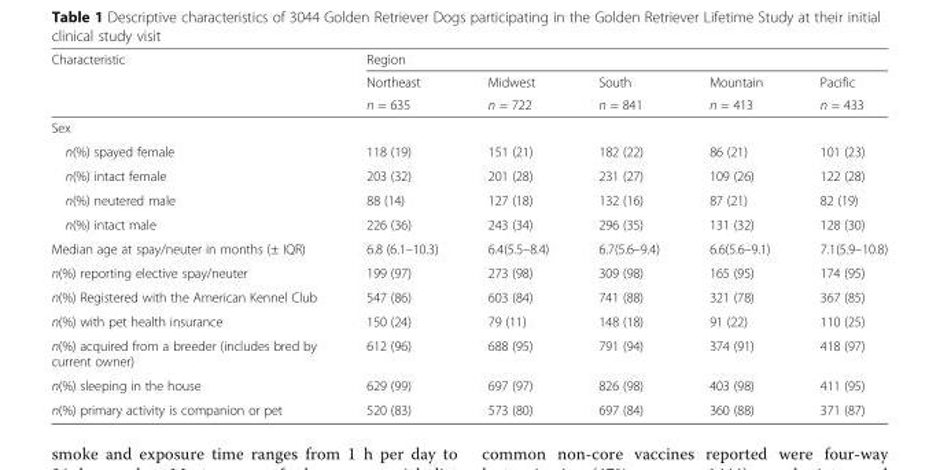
<table><thead><tr><td rowspan="3">Characteristic</td><td colspan="5">Region</td></tr><tr><td rowspan="2">Northeast n = 635</td><td rowspan="2">Midwest n = 722</td><td rowspan="2">South n = 841</td><td rowspan="2">Mountain n = 413</td><td rowspan="2">Pacific n = 433</td></tr><tr></tr></thead><tbody><tr><td colspan="6">Sex</td></tr><tr><td>n(%) spayed female</td><td>118 (19)</td><td>151 (21)</td><td>182 (22)</td><td>86 (21)</td><td>101 (23)</td></tr><tr><td>n(%) intact female</td><td>203 (32)</td><td>201 (28)</td><td>231 (27)</td><td>109 (26)</td><td>122 (28)</td></tr><tr><td>n(%) neutered male</td><td>88 (14)</td><td>127 (18)</td><td>132 (16)</td><td>87 (21)</td><td>82 (19)</td></tr><tr><td>n(%) intact male</td><td>226 (36)</td><td>243 (34)</td><td>296 (35)</td><td>131 (32)</td><td>128 (30)</td></tr><tr><td>Median age at spay/neuter in months (± IQR)</td><td>6.8 (6.1–10.3)</td><td>6.4(5.5–8.4)</td><td>6.7(5.6–9.4)</td><td>6.6(5.6–9.1)</td><td>7.1(5.9–10.8)</td></tr><tr><td>n(%) reporting elective spay/neuter</td><td>199 (97)</td><td>273 (98)</td><td>309 (98)</td><td>165 (95)</td><td>174 (95)</td></tr><tr><td>n(%) Registered with the American Kennel Club</td><td>547 (86)</td><td>603 (84)</td><td>741 (88)</td><td>321 (78)</td><td>367 (85)</td></tr><tr><td>n(%) with pet health insurance</td><td>150 (24)</td><td>79 (11)</td><td>148 (18)</td><td>91 (22)</td><td>110 (25)</td></tr><tr><td>n(%) acquired from a breeder (includes bred by current owner)</td><td>612 (96)</td><td>688 (95)</td><td>791 (94)</td><td>374 (91)</td><td>418 (97)</td></tr><tr><td>n(%) sleeping in the house</td><td>629 (99)</td><td>697 (97)</td><td>826 (98)</td><td>403 (98)</td><td>411 (95)</td></tr><tr><td>n(%) primary activity is companion or pet</td><td>520 (83)</td><td>573 (80)</td><td>697 (84)</td><td>360 (88)</td><td>371 (87)</td></tr></tbody></table>